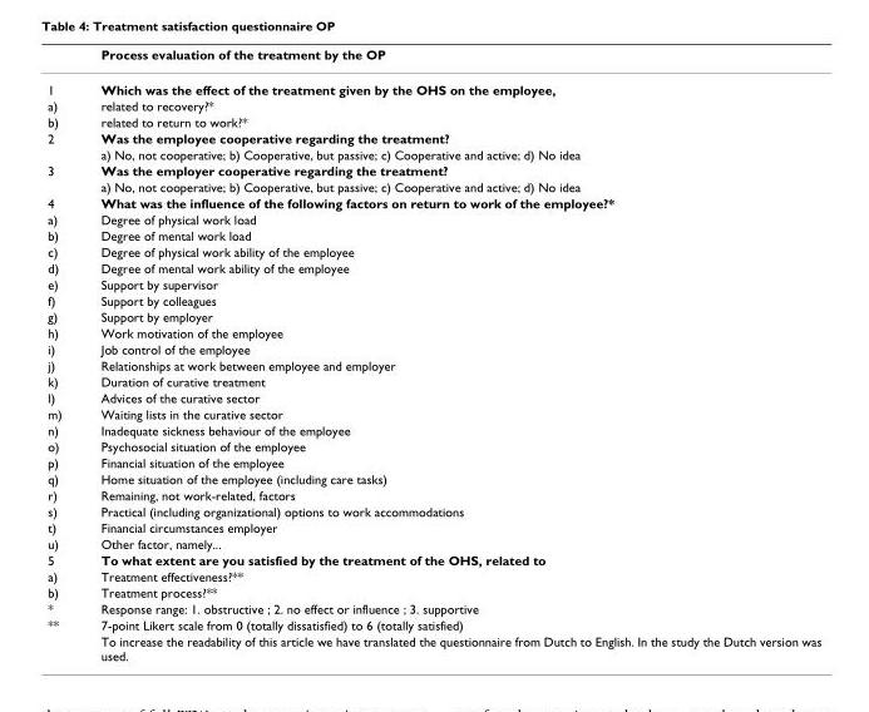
<table><thead><tr><td></td><td>Process evaluation of the treatment by the OP</td></tr></thead><tbody><tr><td>1</td><td>Which was the effect of the treatment given by the OHS on the employee,</td></tr><tr><td>a)</td><td>related to recovery?*</td></tr><tr><td>b)</td><td>related to return to work?*</td></tr><tr><td rowspan="2">2</td><td>Was the employee cooperative regarding the treatment?</td></tr><tr><td>a) No, not cooperative; b) Cooperative, but passive; c) Cooperative and active; d) No idea</td></tr><tr><td rowspan="2">3</td><td>Was the employer cooperative regarding the treatment?</td></tr><tr><td>a) No, not cooperative; b) Cooperative, but passive; c) Cooperative and active; d) No idea</td></tr><tr><td>4</td><td>What was the influence of the following factors on return to work of the employee?*</td></tr><tr><td>a)</td><td>Degree of physical work load</td></tr><tr><td>b)</td><td>Degree of mental work load</td></tr><tr><td>c)</td><td>Degree of physical work ability of the employee</td></tr><tr><td>d)</td><td>Degree of mental work ability of the employee</td></tr><tr><td>e)</td><td>Support by supervisor</td></tr><tr><td>f)</td><td>Support by colleagues</td></tr><tr><td>g)</td><td>Support by employer</td></tr><tr><td>h)</td><td>Work motivation of the employee</td></tr><tr><td>i)</td><td>Job control of the employee</td></tr><tr><td>j)</td><td>Relationships at work between employee and employer</td></tr><tr><td>k)</td><td>Duration of curative treatment</td></tr><tr><td>l)</td><td>Advices of the curative sector</td></tr><tr><td>m)</td><td>Waiting lists in the curative sector</td></tr><tr><td>n)</td><td>Inadequate sickness behaviour of the employee</td></tr><tr><td>o)</td><td>Psychosocial situation of the employee</td></tr><tr><td>p)</td><td>Financial situation of the employee</td></tr><tr><td>q)</td><td>Home situation of the employee (including care tasks)</td></tr><tr><td>r)</td><td>Remaining, not work-related, factors</td></tr><tr><td>s)</td><td>Practical (including organizational) options to work accommodations</td></tr><tr><td>t)</td><td>Financial circumstances employer</td></tr><tr><td>u)</td><td>Other factor, namely...</td></tr><tr><td>5</td><td>To what extent are you satisfied by the treatment of the OHS, related to</td></tr><tr><td>a)</td><td>Treatment effectiveness?**</td></tr><tr><td>b)</td><td>Treatment process?**</td></tr><tr><td>*</td><td>Response range: 1. obstructive ; 2. no effect or influence ; 3. supportive</td></tr><tr><td rowspan="2">**</td><td>7-point Likert scale from 0 (totally dissatisfied) to 6 (totally satisfied)</td></tr><tr><td>To increase the readability of this article we have translated the questionnaire from Dutch to English. In the study the Dutch version was used.</td></tr></tbody></table>